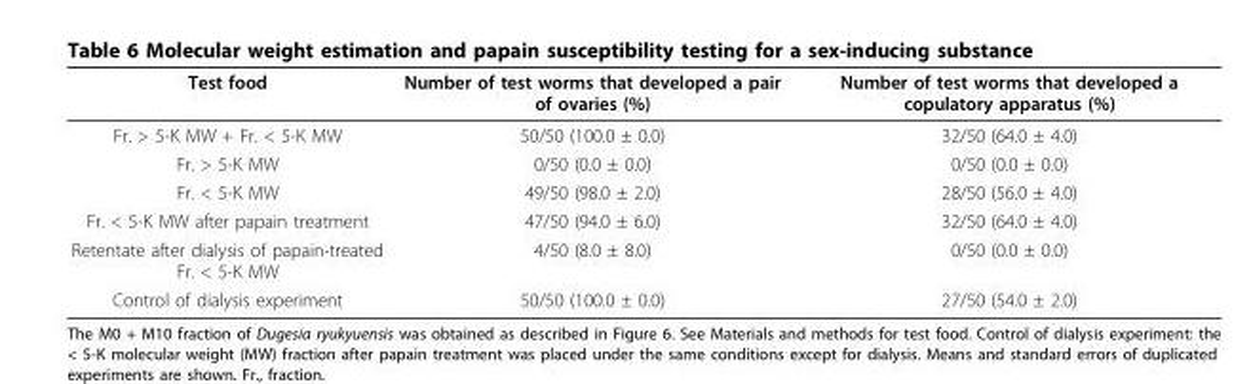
<table><thead><tr><td>Test food</td><td>Number of test worms that developed a pair of ovaries (%)</td><td>Number of test worms that developed a copulatory apparatus (%)</td></tr></thead><tbody><tr><td>Fr. &gt; 5-K MW + Fr. &lt; 5-K MW</td><td>50/50 (100.0 ± 0.0)</td><td>32/50 (64.0 ± 4.0)</td></tr><tr><td>Fr. &gt; 5-K MW</td><td>0/50 (0.0 ± 0.0)</td><td>0/50 (0.0 ± 0.0)</td></tr><tr><td>Fr. &lt; 5-K MW</td><td>49/50 (98.0 ± 2.0)</td><td>28/50 (56.0 ± 4.0)</td></tr><tr><td>Fr. &lt; 5-K MW after papain treatment</td><td>47/50 (94.0 ± 6.0)</td><td>32/50 (64.0 ± 4.0)</td></tr><tr><td>Retentate after dialysis of papain-treated Fr. &lt; 5-K MW</td><td>4/50 (8.0 ± 8.0)</td><td>0/50 (0.0 ± 0.0)</td></tr><tr><td>Control of dialysis experiment</td><td>50/50 (100.0 ± 0.0)</td><td>27/50 (54.0 ± 2.0)</td></tr></tbody></table>